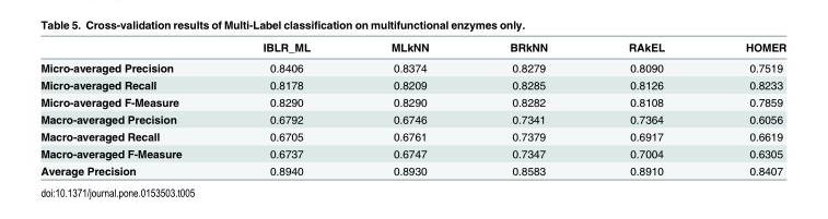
<table><thead><tr><td></td><td>IBLR_ML</td><td>MLkNN</td><td>BRkNN</td><td>RAkEL</td><td>HOMER</td></tr></thead><tbody><tr><td>Micro-averaged Precision</td><td>0.8406</td><td>0.8374</td><td>0.8279</td><td>0.8090</td><td>0.7519</td></tr><tr><td>Micro-averaged Recall</td><td>0.8178</td><td>0.8209</td><td>0.8285</td><td>0.8126</td><td>0.8233</td></tr><tr><td>Micro-averaged F-Measure</td><td>0.8290</td><td>0.8290</td><td>0.8282</td><td>0.8108</td><td>0.7859</td></tr><tr><td>Macro-averaged Precision</td><td>0.6792</td><td>0.6746</td><td>0.7341</td><td>0.7364</td><td>0.6056</td></tr><tr><td>Macro-averaged Recall</td><td>0.6705</td><td>0.6761</td><td>0.7379</td><td>0.6917</td><td>0.6619</td></tr><tr><td>Macro-averaged F-Measure</td><td>0.6737</td><td>0.6747</td><td>0.7347</td><td>0.7004</td><td>0.6305</td></tr><tr><td>Average Precision</td><td>0.8940</td><td>0.8930</td><td>0.8583</td><td>0.8910</td><td>0.8407</td></tr></tbody></table>